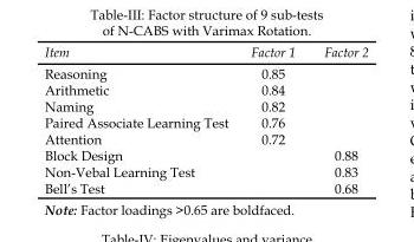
<table><thead><tr><td>Item</td><td>Factor 1</td><td>Factor 2</td></tr></thead><tbody><tr><td>Reasoning</td><td>0.85</td><td></td></tr><tr><td>Arithmetic</td><td>0.84</td><td></td></tr><tr><td>Naming</td><td>0.82</td><td></td></tr><tr><td>Paired Associate Learning Test</td><td>0.76</td><td></td></tr><tr><td>Attention</td><td>0.72</td><td></td></tr><tr><td>Block Design</td><td></td><td>0.88</td></tr><tr><td>Non-Vebal Learning Test</td><td></td><td>0.83</td></tr><tr><td>Bell’s Test</td><td></td><td>0.68</td></tr></tbody></table>